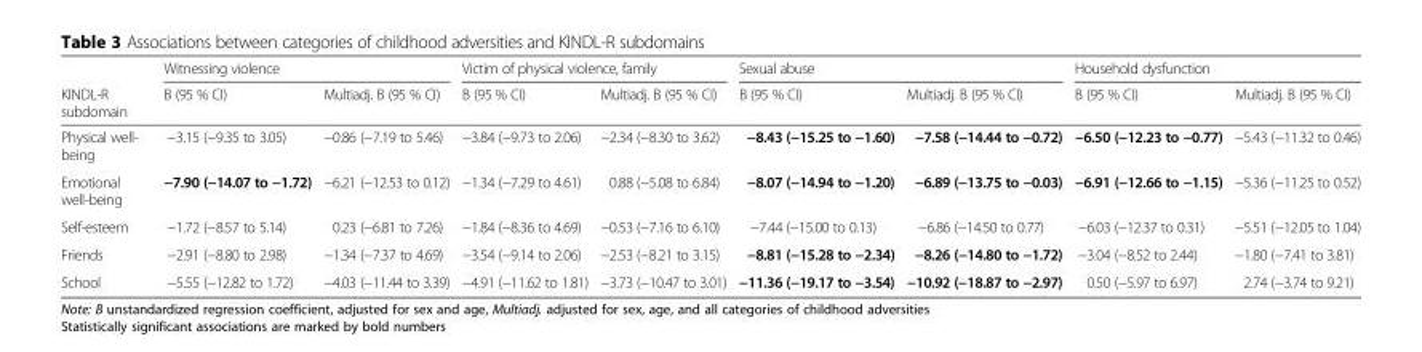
<table><thead><tr><td rowspan="2">KINDL-R subdomain</td><td colspan="2">Witnessing violence</td><td colspan="2">Victim of physical violence, family</td><td colspan="2">Sexual abuse</td><td colspan="2">Household dysfunction</td></tr><tr><td>B (95 % CI)</td><td>Multiadj. B (95 % CI)</td><td>B (95 % CI)</td><td>Multiadj. B (95 % CI)</td><td>B (95 % CI)</td><td>Multiadj. B (95 % CI)</td><td>B (95 % CI)</td><td>Multiadj. B (95 % CI)</td></tr></thead><tbody><tr><td>Physical well- being</td><td>−3.15 (−9.35 to 3.05)</td><td>−0.86 (−7.19 to 5.46)</td><td>−3.84 (−9.73 to 2.06)</td><td>−2.34 (−8.30 to 3.62)</td><td>−8.43 (−15.25 to −1.60)</td><td>−7.58 (−14.44 to −0.72)</td><td>−6.50 (−12.23 to −0.77)</td><td>−5.43 (−11.32 to 0.46)</td></tr><tr><td>Emotional well-being</td><td>−7.90 (−14.07 to −1.72)</td><td>−6.21 (−12.53 to 0.12)</td><td>−1.34 (−7.29 to 4.61)</td><td>0.88 (−5.08 to 6.84)</td><td>−8.07 (−14.94 to −1.20)</td><td>−6.89 (−13.75 to −0.03)</td><td>−6.91 (−12.66 to −1.15)</td><td>−5.36 (−11.25 to 0.52)</td></tr><tr><td>Self-esteem</td><td>−1.72 (−8.57 to 5.14)</td><td>0.23 (−6.81 to 7.26)</td><td>−1.84 (−8.36 to 4.69)</td><td>−0.53 (−7.16 to 6.10)</td><td>−7.44 (−15.00 to 0.13)</td><td>−6.86 (−14.50 to 0.77)</td><td>−6.03 (−12.37 to 0.31)</td><td>−5.51 (−12.05 to 1.04)</td></tr><tr><td>Friends</td><td>−2.91 (−8.80 to 2.98)</td><td>−1.34 (−7.37 to 4.69)</td><td>−3.54 (−9.14 to 2.06)</td><td>−2.53 (−8.21 to 3.15)</td><td>−8.81 (−15.28 to −2.34)</td><td>−8.26 (−14.80 to −1.72)</td><td>−3.04 (−8.52 to 2.44)</td><td>−1.80 (−7.41 to 3.81)</td></tr><tr><td>School</td><td>−5.55 (−12.82 to 1.72)</td><td>−4.03 (−11.44 to 3.39)</td><td>−4.91 (−11.62 to 1.81)</td><td>−3.73 (−10.47 to 3.01)</td><td>−11.36 (−19.17 to −3.54)</td><td>−10.92 (−18.87 to −2.97)</td><td>0.50 (−5.97 to 6.97)</td><td>2.74 (−3.74 to 9.21)</td></tr></tbody></table>